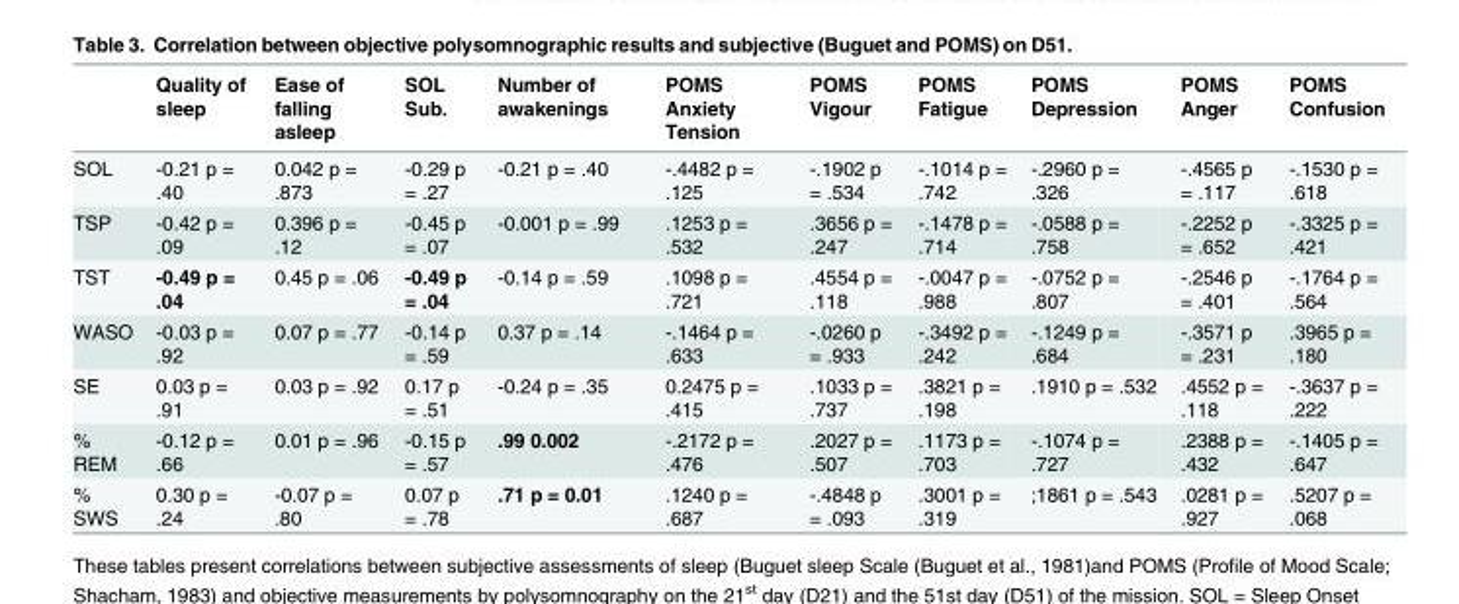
<table><thead><tr><td></td><td>Quality of sleep</td><td>Ease of falling asleep</td><td>SOL Sub.</td><td>Number of awakenings</td><td>POMS Anxiety Tension</td><td>POMS Vigour</td><td>POMS Fatigue</td><td>POMS Depression</td><td>POMS Anger</td><td>POMS Confusion</td></tr></thead><tbody><tr><td>SOL</td><td>-0.21 p = .40</td><td>0.042 p = .873</td><td>-0.29 p = .27</td><td>-0.21 p = .40</td><td>-.4482 p = .125</td><td>-.1902 p = .534</td><td>-.1014 p = .742</td><td>-.2960 p = .326</td><td>-.4565 p = .117</td><td>-.1530 p = .618</td></tr><tr><td>TSP</td><td>-0.42 p = .09</td><td>0.396 p = .12</td><td>-0.45 p = .07</td><td>-0.001 p = .99</td><td>.1253 p = .532</td><td>.3656 p = .247</td><td>-.1478 p = .714</td><td>-.0588 p = .758</td><td>-.2252 p = .652</td><td>-.3325 p = .421</td></tr><tr><td>TST</td><td>-0.49 p = .04</td><td>0.45 p = .06</td><td>-0.49 p = .04</td><td>-0.14 p = .59</td><td>.1098 p = .721</td><td>.4554 p = .118</td><td>-.0047 p = .988</td><td>-.0752 p = .807</td><td>-.2546 p = .401</td><td>-.1764 p = .564</td></tr><tr><td>WASO</td><td>-0.03 p = .92</td><td>0.07 p = .77</td><td>-0.14 p = .59</td><td>0.37 p = .14</td><td>-.1464 p = .633</td><td>-.0260 p = .933</td><td>-.3492 p = .242</td><td>-.1249 p = .684</td><td>-.3571 p = .231</td><td>.3965 p = .180</td></tr><tr><td>SE</td><td>0.03 p = .91</td><td>0.03 p = .92</td><td>0.17 p = .51</td><td>-0.24 p = .35</td><td>0.2475 p = .415</td><td>.1033 p = .737</td><td>.3821 p = .198</td><td>.1910 p = .532</td><td>.4552 p = .118</td><td>-.3637 p = .222</td></tr><tr><td>% REM</td><td>-0.12 p = .66</td><td>0.01 p = .96</td><td>-0.15 p = .57</td><td>.99 0.002</td><td>-.2172 p = .476</td><td>.2027 p = .507</td><td>.1173 p = .703</td><td>-.1074 p = .727</td><td>.2388 p = .432</td><td>-.1405 p = .647</td></tr><tr><td>% SWS</td><td>0.30 p = .24</td><td>-0.07 p = .80</td><td>0.07 p = .78</td><td>.71 p = 0.01</td><td>.1240 p = .687</td><td>-.4848 p = .093</td><td>.3001 p = .319</td><td>;1861 p = .543</td><td>.0281 p = .927</td><td>.5207 p = .068</td></tr></tbody></table>